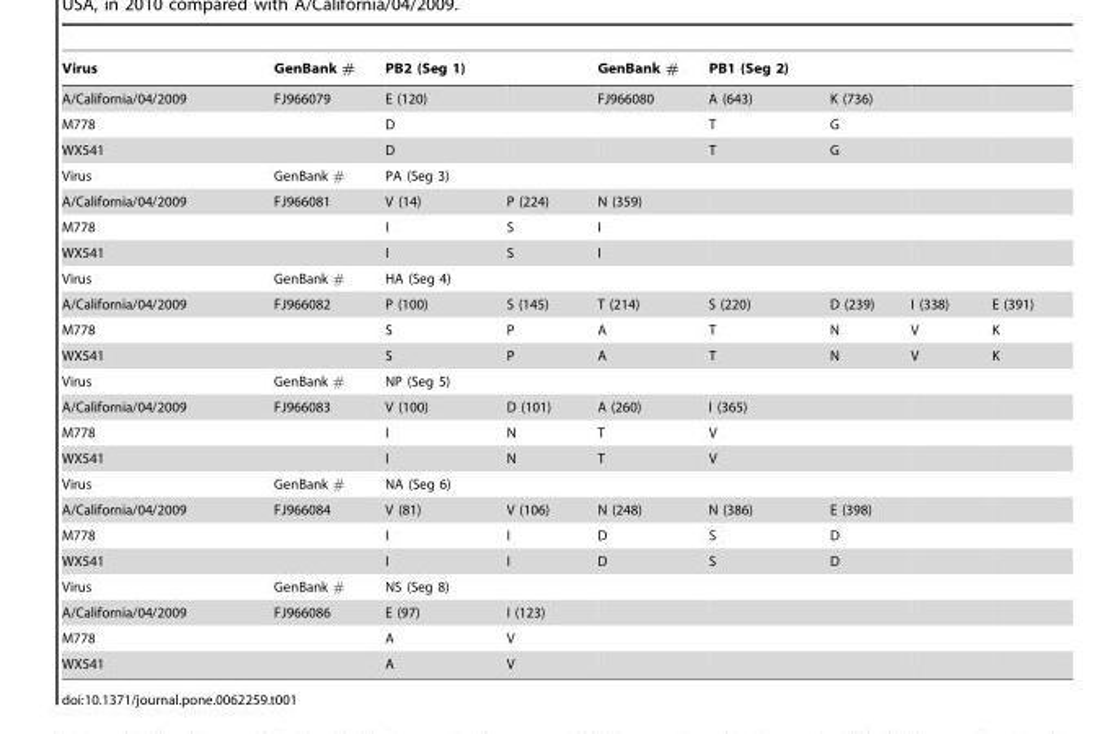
<table><thead><tr><td>Virus</td><td>GenBank #</td><td>PB2 (Seg 1)</td><td></td><td>GenBank #</td><td>PB1 (Seg 2)</td><td></td><td></td><td></td></tr></thead><tbody><tr><td>A/California/04/2009</td><td>FJ966079</td><td>E (120)</td><td></td><td>FJ966080</td><td>A (643)</td><td>K (736)</td><td></td><td></td></tr><tr><td>M778</td><td></td><td>D</td><td></td><td></td><td>T</td><td>G</td><td></td><td></td></tr><tr><td>WX541</td><td></td><td>D</td><td></td><td></td><td>T</td><td>G</td><td></td><td></td></tr><tr><td>Virus</td><td>GenBank #</td><td>PA (Seg 3)</td><td></td><td></td><td></td><td></td><td></td><td></td></tr><tr><td>A/California/04/2009</td><td>FJ966081</td><td>V (14)</td><td>P (224)</td><td>N (359)</td><td></td><td></td><td></td><td></td></tr><tr><td>M778</td><td></td><td>I</td><td>S</td><td>I</td><td></td><td></td><td></td><td></td></tr><tr><td>WX541</td><td></td><td>I</td><td>S</td><td>I</td><td></td><td></td><td></td><td></td></tr><tr><td>Virus</td><td>GenBank #</td><td>HA (Seg 4)</td><td></td><td></td><td></td><td></td><td></td><td></td></tr><tr><td>A/California/04/2009</td><td>FJ966082</td><td>P (100)</td><td>S (145)</td><td>T (214)</td><td>S (220)</td><td>D (239)</td><td>I (338)</td><td>E (391)</td></tr><tr><td>M778</td><td></td><td>S</td><td>P</td><td>A</td><td>T</td><td>N</td><td>V</td><td>K</td></tr><tr><td>WX541</td><td></td><td>S</td><td>P</td><td>A</td><td>T</td><td>N</td><td>V</td><td>K</td></tr><tr><td>Virus</td><td>GenBank #</td><td>NP (Seg 5)</td><td></td><td></td><td></td><td></td><td></td><td></td></tr><tr><td>A/California/04/2009</td><td>FJ966083</td><td>V (100)</td><td>D (101)</td><td>A (260)</td><td>I (365)</td><td></td><td></td><td></td></tr><tr><td>M778</td><td></td><td>I</td><td>N</td><td>T</td><td>V</td><td></td><td></td><td></td></tr><tr><td>WX541</td><td></td><td>I</td><td>N</td><td>T</td><td>V</td><td></td><td></td><td></td></tr><tr><td>Virus</td><td>GenBank #</td><td>NA (Seg 6)</td><td></td><td></td><td></td><td></td><td></td><td></td></tr><tr><td>A/California/04/2009</td><td>FJ966084</td><td>V (81)</td><td>V (106)</td><td>N (248)</td><td>N (386)</td><td>E (398)</td><td></td><td></td></tr><tr><td>M778</td><td></td><td>I</td><td>I</td><td>D</td><td>S</td><td>D</td><td></td><td></td></tr><tr><td>WX541</td><td></td><td>I</td><td>I</td><td>D</td><td>S</td><td>D</td><td></td><td></td></tr><tr><td>Virus</td><td>GenBank #</td><td>NS (Seg 8)</td><td></td><td></td><td></td><td></td><td></td><td></td></tr><tr><td>A/California/04/2009</td><td>FJ966086</td><td>E (97)</td><td>I (123)</td><td></td><td></td><td></td><td></td><td></td></tr><tr><td>M778</td><td></td><td>A</td><td>V</td><td></td><td></td><td></td><td></td><td></td></tr><tr><td>WX541</td><td></td><td>A</td><td>V</td><td></td><td></td><td></td><td></td><td></td></tr></tbody></table>